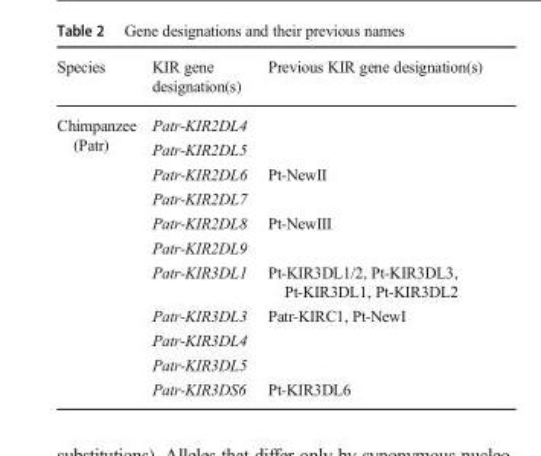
<table><thead><tr><td>Species</td><td>KIR gene designation(s)</td><td>Previous KIR gene designation(s)</td></tr></thead><tbody><tr><td rowspan="11">Chimpanzee (Patr)</td><td>Patr-KIR2DL4</td><td></td></tr><tr><td>Patr-KIR2DL5</td><td></td></tr><tr><td>Patr-KIR2DL6</td><td>Pt-NewII</td></tr><tr><td>Patr-KIR2DL7</td><td></td></tr><tr><td>Patr-KIR2DL8</td><td>Pt-NewIII</td></tr><tr><td>Patr-KIR2DL9</td><td></td></tr><tr><td>Patr-KIR3DL1</td><td>Pt-KIR3DL1/2, Pt-KIR3DL3, Pt-KIR3DL1, Pt-KIR3DL2</td></tr><tr><td>Patr-KIR3DL3</td><td>Patr-KIRC1, Pt-NewI</td></tr><tr><td>Patr-KIR3DL4</td><td></td></tr><tr><td>Patr-KIR3DL5</td><td></td></tr><tr><td>Patr-KIR3DS6</td><td>Pt-KIR3DL6</td></tr></tbody></table>